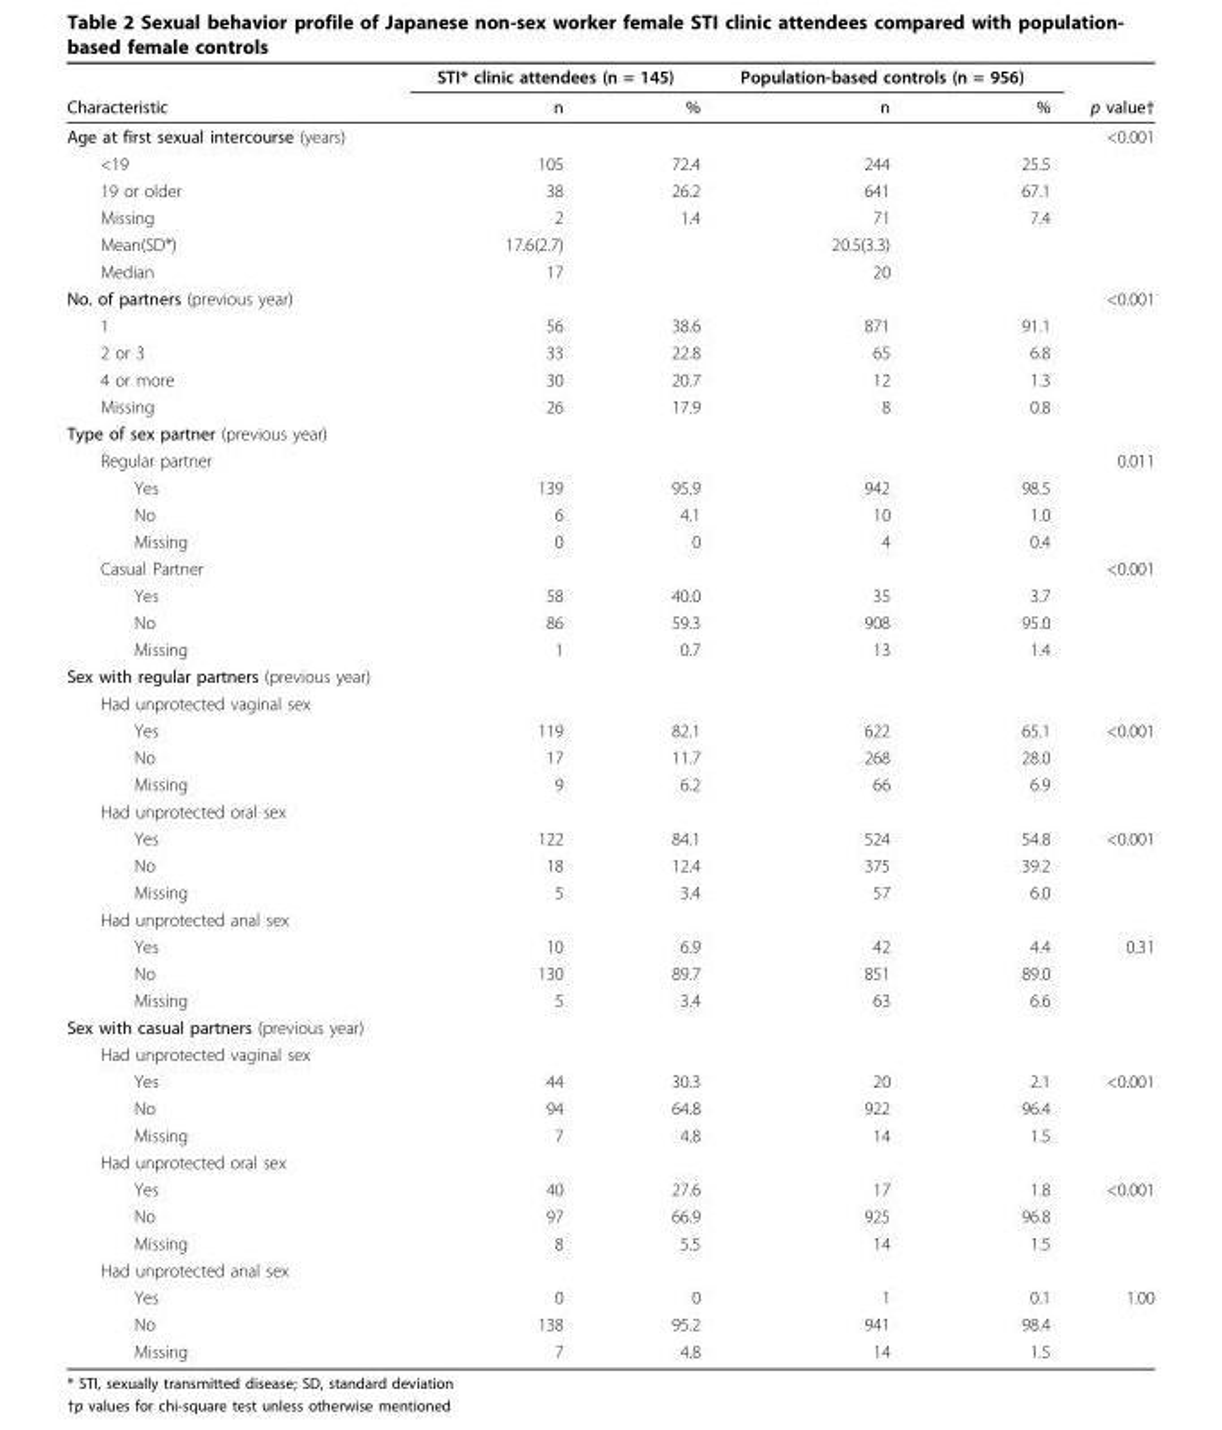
<table><thead><tr><td rowspan="2">Characteristic</td><td colspan="2">STI* clinic attendees (n = 145)</td><td colspan="2">Population-based controls (n = 956)</td><td rowspan="2">p value†</td></tr><tr><td>n</td><td>%</td><td>n</td><td>%</td></tr></thead><tbody><tr><td>Age at first sexual intercourse (years)</td><td></td><td></td><td></td><td></td><td>&lt;0.001</td></tr><tr><td>&lt;19</td><td>105</td><td>72.4</td><td>244</td><td>25.5</td><td></td></tr><tr><td>19 or older</td><td>38</td><td>26.2</td><td>641</td><td>67.1</td><td></td></tr><tr><td>Missing</td><td>2</td><td>1.4</td><td>71</td><td>7.4</td><td></td></tr><tr><td>Mean(SD*)</td><td>17.6(2.7)</td><td></td><td>20.5(3.3)</td><td></td><td></td></tr><tr><td>Median</td><td>17</td><td></td><td>20</td><td></td><td></td></tr><tr><td>No. of partners (previous year)</td><td></td><td></td><td></td><td></td><td>&lt;0.001</td></tr><tr><td>1</td><td>56</td><td>38.6</td><td>871</td><td>91.1</td><td></td></tr><tr><td>2 or 3</td><td>33</td><td>22.8</td><td>65</td><td>6.8</td><td></td></tr><tr><td>4 or more</td><td>30</td><td>20.7</td><td>12</td><td>1.3</td><td></td></tr><tr><td>Missing</td><td>26</td><td>17.9</td><td>8</td><td>0.8</td><td></td></tr><tr><td colspan="6">Type of sex partner (previous year)</td></tr><tr><td>Regular partner</td><td></td><td></td><td></td><td></td><td>0.011</td></tr><tr><td>Yes</td><td>139</td><td>95.9</td><td>942</td><td>98.5</td><td></td></tr><tr><td>No</td><td>6</td><td>4.1</td><td>10</td><td>1.0</td><td></td></tr><tr><td>Missing</td><td>0</td><td>0</td><td>4</td><td>0.4</td><td></td></tr><tr><td>Casual Partner</td><td></td><td></td><td></td><td></td><td>&lt;0.001</td></tr><tr><td>Yes</td><td>58</td><td>40.0</td><td>35</td><td>3.7</td><td></td></tr><tr><td>No</td><td>86</td><td>59.3</td><td>908</td><td>95.0</td><td></td></tr><tr><td>Missing</td><td>1</td><td>0.7</td><td>13</td><td>1.4</td><td></td></tr><tr><td colspan="6">Sex with regular partners (previous year)</td></tr><tr><td colspan="6">Had unprotected vaginal sex</td></tr><tr><td>Yes</td><td>119</td><td>82.1</td><td>622</td><td>65.1</td><td>&lt;0.001</td></tr><tr><td>No</td><td>17</td><td>11.7</td><td>268</td><td>28.0</td><td></td></tr><tr><td>Missing</td><td>9</td><td>6.2</td><td>66</td><td>6.9</td><td></td></tr><tr><td colspan="6">Had unprotected oral sex</td></tr><tr><td>Yes</td><td>122</td><td>84.1</td><td>524</td><td>54.8</td><td>&lt;0.001</td></tr><tr><td>No</td><td>18</td><td>12.4</td><td>375</td><td>39.2</td><td></td></tr><tr><td>Missing</td><td>5</td><td>3.4</td><td>57</td><td>6.0</td><td></td></tr><tr><td colspan="6">Had unprotected anal sex</td></tr><tr><td>Yes</td><td>10</td><td>6.9</td><td>42</td><td>4.4</td><td>0.31</td></tr><tr><td>No</td><td>130</td><td>89.7</td><td>851</td><td>89.0</td><td></td></tr><tr><td>Missing</td><td>5</td><td>3.4</td><td>63</td><td>6.6</td><td></td></tr><tr><td colspan="6">Sex with casual partners (previous year)</td></tr><tr><td colspan="6">Had unprotected vaginal sex</td></tr><tr><td>Yes</td><td>44</td><td>30.3</td><td>20</td><td>2.1</td><td>&lt;0.001</td></tr><tr><td>No</td><td>94</td><td>64.8</td><td>922</td><td>96.4</td><td></td></tr><tr><td>Missing</td><td>7</td><td>4.8</td><td>14</td><td>1.5</td><td></td></tr><tr><td colspan="6">Had unprotected oral sex</td></tr><tr><td>Yes</td><td>40</td><td>27.6</td><td>17</td><td>1.8</td><td>&lt;0.001</td></tr><tr><td>No</td><td>97</td><td>66.9</td><td>925</td><td>96.8</td><td></td></tr><tr><td>Missing</td><td>8</td><td>5.5</td><td>14</td><td>1.5</td><td></td></tr><tr><td colspan="6">Had unprotected anal sex</td></tr><tr><td>Yes</td><td>0</td><td>0</td><td>1</td><td>0.1</td><td>1.00</td></tr><tr><td>No</td><td>138</td><td>95.2</td><td>941</td><td>98.4</td><td></td></tr><tr><td>Missing</td><td>7</td><td>4.8</td><td>14</td><td>1.5</td><td></td></tr></tbody></table>